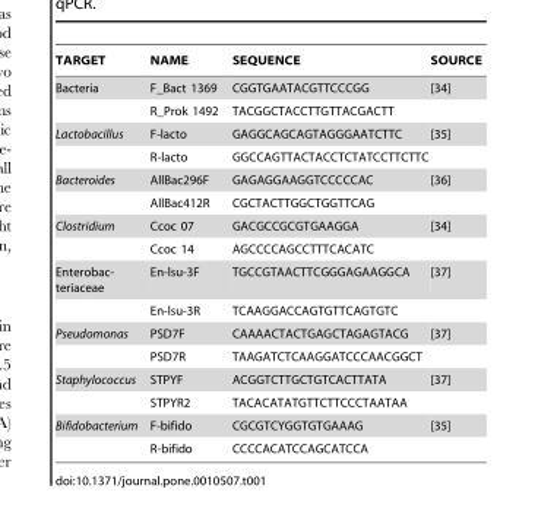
<table><thead><tr><td>TARGET</td><td>NAME</td><td>SEQUENCE</td><td>SOURCE</td></tr></thead><tbody><tr><td rowspan="2">Bacteria</td><td>F_Bact 1369</td><td>CGGTGAATACGTTCCCGG</td><td>[34]</td></tr><tr><td>R_Prok 1492</td><td>TACGGCTACCTTGTTACGACTT</td><td></td></tr><tr><td rowspan="2">Lactobacillus</td><td>F-lacto</td><td>GAGGCAGCAGTAGGGAATCTTC</td><td>[35]</td></tr><tr><td>R-lacto</td><td>GGCCAGTTACTACCTCTATCCTTCTTC</td><td></td></tr><tr><td rowspan="2">Bacteroides</td><td>AllBac296F</td><td>GAGAGGAAGGTCCCCCAC</td><td>[36]</td></tr><tr><td>AllBac412R</td><td>CGCTACTTGGCTGGTTCAG</td><td></td></tr><tr><td rowspan="2">Clostridium</td><td>Ccoc 07</td><td>GACGCCGCGTGAAGGA</td><td>[34]</td></tr><tr><td>Ccoc 14</td><td>AGCCCCAGCCTTTCACATC</td><td></td></tr><tr><td rowspan="2">Enterobac- teriaceae</td><td>En-lsu-3F</td><td>TGCCGTAACTTCGGGAGAAGGCA</td><td>[37]</td></tr><tr><td>En-lsu-3R</td><td>TCAAGGACCAGTGTTCAGTGTC</td><td></td></tr><tr><td rowspan="2">Pseudomonas</td><td>PSD7F</td><td>CAAAACTACTGAGCTAGAGTACG</td><td>[37]</td></tr><tr><td>PSD7R</td><td>TAAGATCTCAAGGATCCCAACGGCT</td><td></td></tr><tr><td rowspan="2">Staphylococcus</td><td>STPYF</td><td>ACGGTCTTGCTGTCACTTATA</td><td>[37]</td></tr><tr><td>STPYR2</td><td>TACACATATGTTCTTCCCTAATAA</td><td></td></tr><tr><td rowspan="2">Bifidobacterium</td><td>F-bifido</td><td>CGCGTCYGGTGTGAAAG</td><td>[35]</td></tr><tr><td>R-bifido</td><td>CCCCACATCCAGCATCCA</td><td></td></tr></tbody></table>